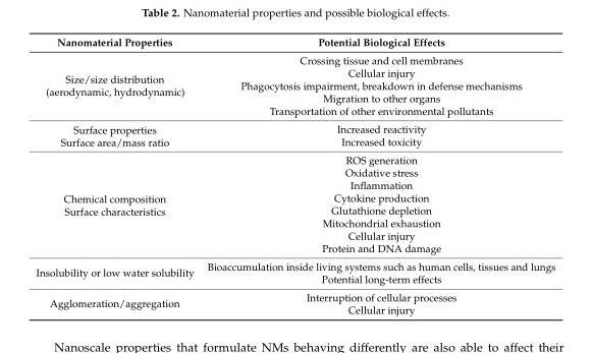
<table><thead><tr><td>Nanomaterial Properties</td><td>Potential Biological Effects</td></tr></thead><tbody><tr><td rowspan="5">Size/size distribution (aerodynamic, hydrodynamic)</td><td>Crossing tissue and cell membranes</td></tr><tr><td>Cellular injury</td></tr><tr><td>Phagocytosis impairment, breakdown in defense mechanisms</td></tr><tr><td>Migration to other organs</td></tr><tr><td>Transportation of other environmental pollutants</td></tr><tr><td rowspan="2">Surface properties Surface area/mass ratio</td><td>Increased reactivity</td></tr><tr><td>Increased toxicity</td></tr><tr><td rowspan="8">Chemical composition Surface characteristics</td><td>ROS generation</td></tr><tr><td>Oxidative stress</td></tr><tr><td>Inflammation</td></tr><tr><td>Cytokine production</td></tr><tr><td>Glutathione depletion</td></tr><tr><td>Mitochondrial exhaustion</td></tr><tr><td>Cellular injury</td></tr><tr><td>Protein and DNA damage</td></tr><tr><td rowspan="2">Insolubility or low water solubility</td><td>Bioaccumulation inside living systems such as human cells, tissues and lungs</td></tr><tr><td>Potential long-term effects</td></tr><tr><td rowspan="2">Agglomeration/aggregation</td><td>Interruption of cellular processes</td></tr><tr><td>Cellular injury</td></tr></tbody></table>